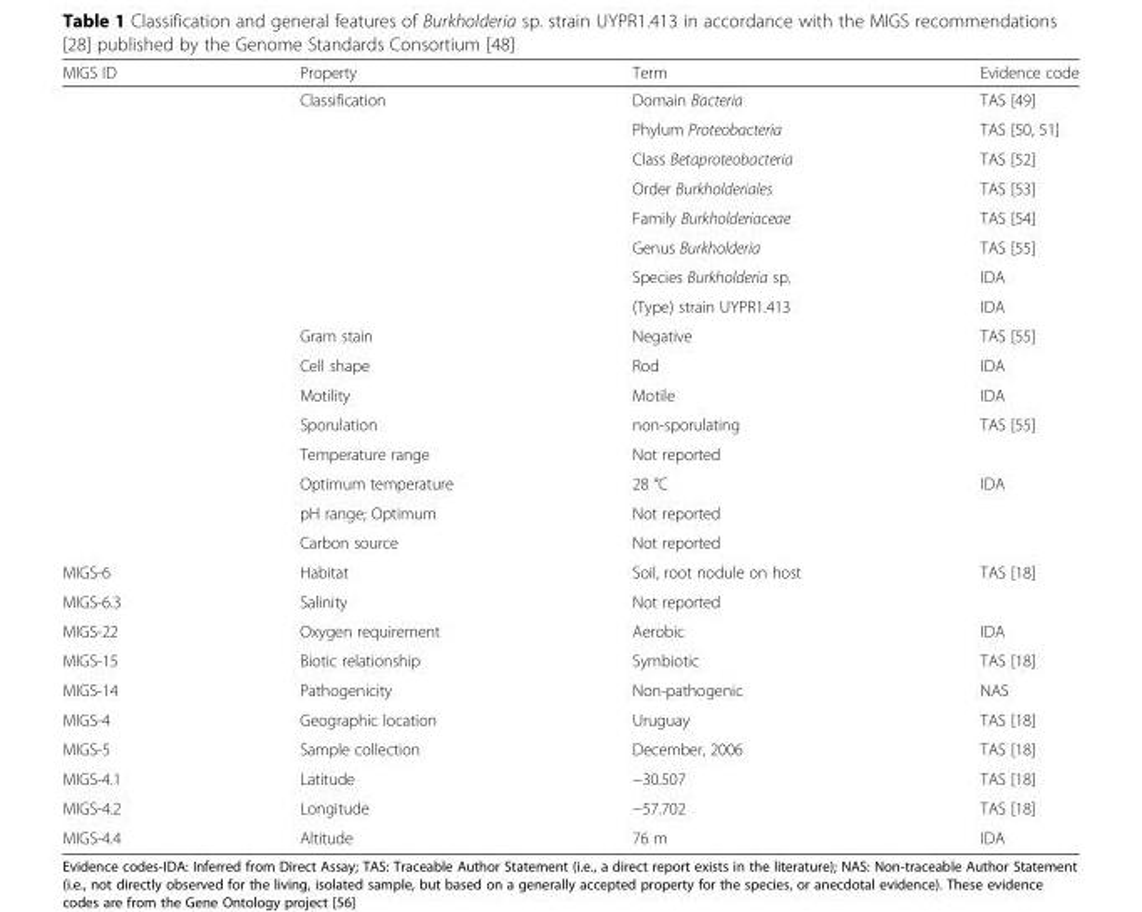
<table><thead><tr><td>MIGS ID</td><td>Property</td><td>Term</td><td>Evidence code</td></tr></thead><tbody><tr><td rowspan="8"></td><td rowspan="8">Classification</td><td>Domain Bacteria</td><td>TAS [49]</td></tr><tr><td>Phylum Proteobacteria</td><td>TAS [50, 51]</td></tr><tr><td>Class Betaproteobacteria</td><td>TAS [52]</td></tr><tr><td>Order Burkholderiales</td><td>TAS [53]</td></tr><tr><td>Family Burkholderiaceae</td><td>TAS [54]</td></tr><tr><td>Genus Burkholderia</td><td>TAS [55]</td></tr><tr><td>Species Burkholderia sp.</td><td>IDA</td></tr><tr><td>(Type) strain UYPR1.413</td><td>IDA</td></tr><tr><td></td><td>Gram stain</td><td>Negative</td><td>TAS [55]</td></tr><tr><td></td><td>Cell shape</td><td>Rod</td><td>IDA</td></tr><tr><td></td><td>Motility</td><td>Motile</td><td>IDA</td></tr><tr><td></td><td>Sporulation</td><td>non-sporulating</td><td>TAS [55]</td></tr><tr><td></td><td>Temperature range</td><td>Not reported</td><td></td></tr><tr><td></td><td>Optimum temperature</td><td>28 °C</td><td>IDA</td></tr><tr><td></td><td>pH range; Optimum</td><td>Not reported</td><td></td></tr><tr><td></td><td>Carbon source</td><td>Not reported</td><td></td></tr><tr><td>MIGS-6</td><td>Habitat</td><td>Soil, root nodule on host</td><td>TAS [18]</td></tr><tr><td>MIGS-6.3</td><td>Salinity</td><td>Not reported</td><td></td></tr><tr><td>MIGS-22</td><td>Oxygen requirement</td><td>Aerobic</td><td>IDA</td></tr><tr><td>MIGS-15</td><td>Biotic relationship</td><td>Symbiotic</td><td>TAS [18]</td></tr><tr><td>MIGS-14</td><td>Pathogenicity</td><td>Non-pathogenic</td><td>NAS</td></tr><tr><td>MIGS-4</td><td>Geographic location</td><td>Uruguay</td><td>TAS [18]</td></tr><tr><td>MIGS-5</td><td>Sample collection</td><td>December, 2006</td><td>TAS [18]</td></tr><tr><td>MIGS-4.1</td><td>Latitude</td><td>−30.507</td><td>TAS [18]</td></tr><tr><td>MIGS-4.2</td><td>Longitude</td><td>−57.702</td><td>TAS [18]</td></tr><tr><td>MIGS-4.4</td><td>Altitude</td><td>76 m</td><td>IDA</td></tr></tbody></table>